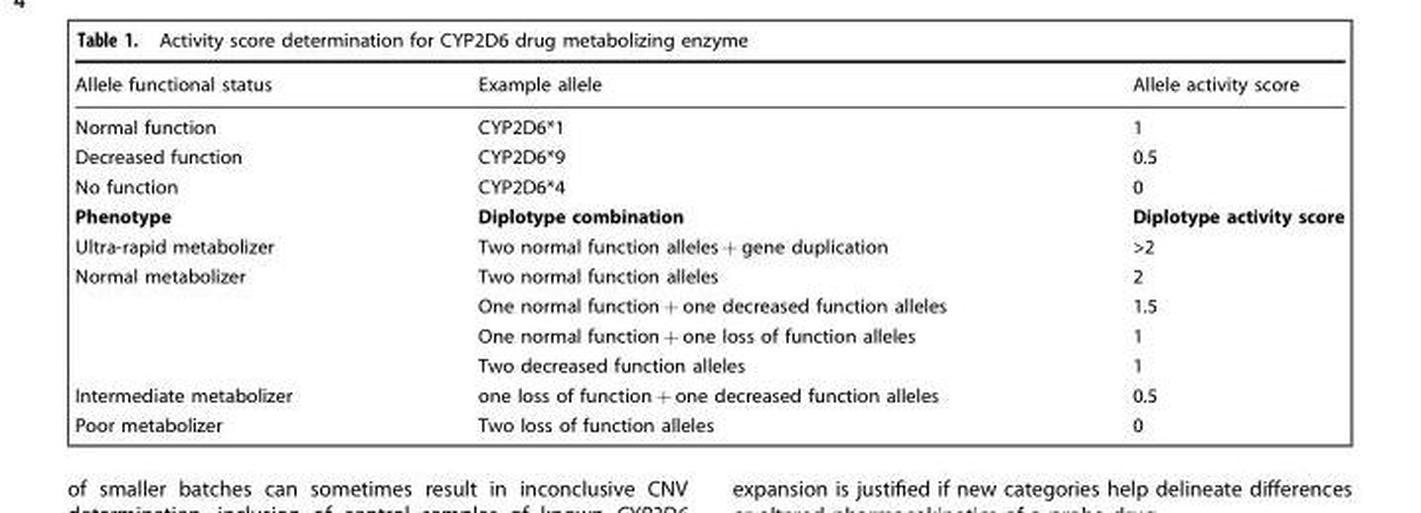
<table><thead><tr><td>Allele functional status</td><td>Example allele</td><td>Allele activity score</td></tr></thead><tbody><tr><td>Normal function</td><td>CYP2D6*1</td><td>1</td></tr><tr><td>Decreased function</td><td>CYP2D6*9</td><td>0.5</td></tr><tr><td>No function</td><td>CYP2D6*4</td><td>0</td></tr><tr><td>Phenotype</td><td>Diplotype combination</td><td>Diplotype activity score</td></tr><tr><td>Ultra-rapid metabolizer</td><td>Two normal function alleles + gene duplication</td><td>&gt;2</td></tr><tr><td rowspan="4">Normal metabolizer</td><td>Two normal function alleles</td><td>2</td></tr><tr><td>One normal function + one decreased function alleles</td><td>1.5</td></tr><tr><td>One normal function + one loss of function alleles</td><td>1</td></tr><tr><td>Two decreased function alleles</td><td>1</td></tr><tr><td>Intermediate metabolizer</td><td>one loss of function + one decreased function alleles</td><td>0.5</td></tr><tr><td>Poor metabolizer</td><td>Two loss of function alleles</td><td>0</td></tr></tbody></table>